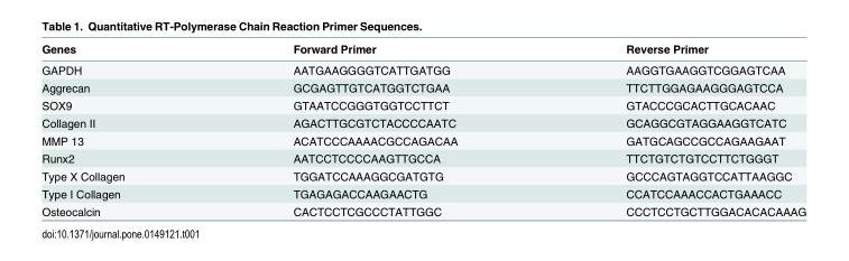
<table><thead><tr><td>Genes</td><td>Forward Primer</td><td>Reverse Primer</td></tr></thead><tbody><tr><td>GAPDH</td><td>AATGAAGGGGTCATTGATGG</td><td>AAGGTGAAGGTCGGAGTCAA</td></tr><tr><td>Aggrecan</td><td>GCGAGTTGTCATGGTCTGAA</td><td>TTCTTGGAGAAGGGAGTCCA</td></tr><tr><td>SOX9</td><td>GTAATCCGGGTGGTCCTTCT</td><td>GTACCCGCACTTGCACAAC</td></tr><tr><td>Collagen II</td><td>AGACTTGCGTCTACCCCAATC</td><td>GCAGGCGTAGGAAGGTCATC</td></tr><tr><td>MMP 13</td><td>ACATCCCAAAACGCCAGACAA</td><td>GATGCAGCCGCCAGAAGAAT</td></tr><tr><td>Runx2</td><td>AATCCTCCCCAAGTTGCCA</td><td>TTCTGTCTGTCCTTCTGGGT</td></tr><tr><td>Type X Collagen</td><td>TGGATCCAAAGGCGATGTG</td><td>GCCCAGTAGGTCCATTAAGGC</td></tr><tr><td>Type I Collagen</td><td>TGAGAGACCAAGAACTG</td><td>CCATCCAAACCACTGAAACC</td></tr><tr><td>Osteocalcin</td><td>CACTCCTCGCCCTATTGGC</td><td>CCCTCCTGCTTGGACACACAAAG</td></tr></tbody></table>